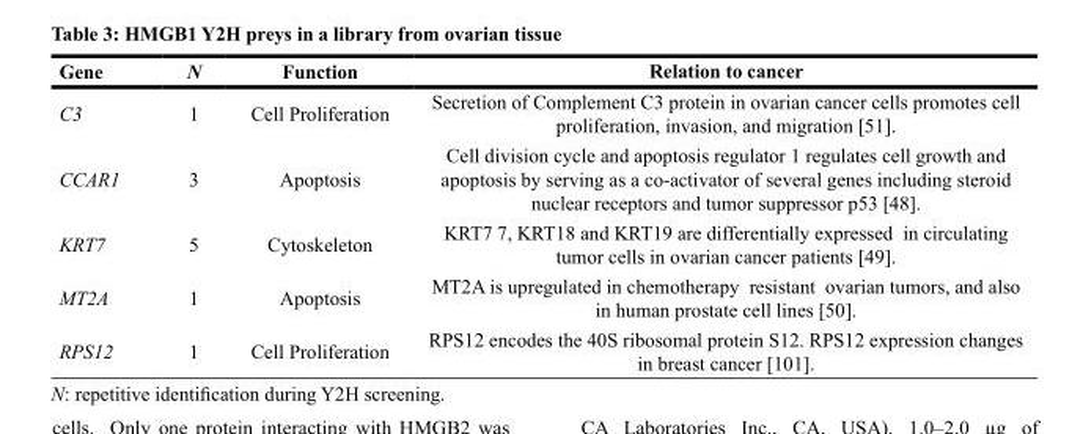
<table><thead><tr><td>Gene</td><td>N</td><td>Function</td><td>Relation to cancer</td></tr></thead><tbody><tr><td>C3</td><td>1</td><td>Cell Proliferation</td><td>Secretion of Complement C3 protein in ovarian cancer cells promotes cell proliferation, invasion, and migration [51].</td></tr><tr><td>CCAR1</td><td>3</td><td>Apoptosis</td><td>Cell division cycle and apoptosis regulator 1 regulates cell growth and apoptosis by serving as a co-activator of several genes including steroid nuclear receptors and tumor suppressor p53 [48].</td></tr><tr><td>KRT7</td><td>5</td><td>Cytoskeleton</td><td>KRT7 7, KRT18 and KRT19 are differentially expressed in circulating tumor cells in ovarian cancer patients [49].</td></tr><tr><td>MT2A</td><td>1</td><td>Apoptosis</td><td>MT2A is upregulated in chemotherapy resistant ovarian tumors, and also in human prostate cell lines [50].</td></tr><tr><td>RPS12</td><td>1</td><td>Cell Proliferation</td><td>RPS12 encodes the 40S ribosomal protein S12. RPS12 expression changes in breast cancer [101].</td></tr></tbody></table>